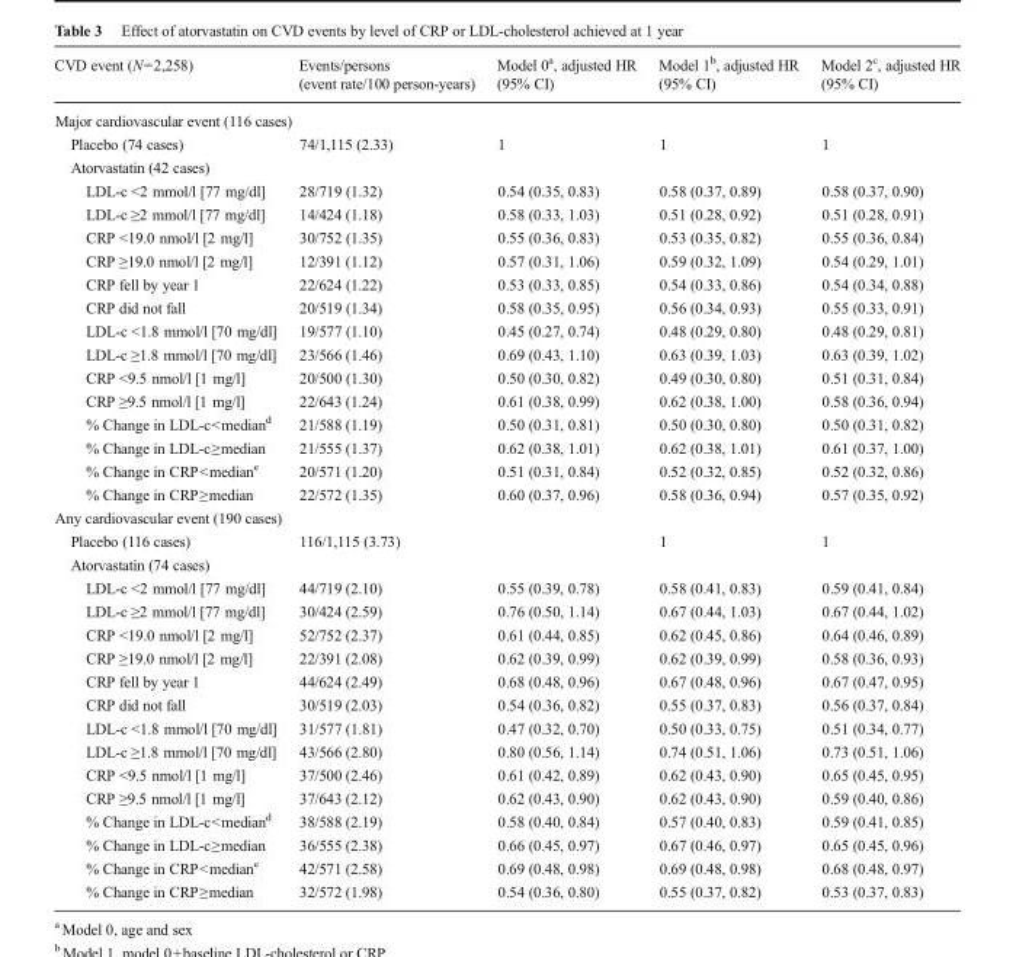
<table><thead><tr><td>CVD event (N=2,258)</td><td>Events/persons (event rate/100 person-years)</td><td>Model 0<sup>a</sup>, adjusted HR (95% CI)</td><td>Model 1<sup>b</sup>, adjusted HR (95% CI)</td><td>Model 2<sup>c</sup>, adjusted HR (95% CI)</td></tr></thead><tbody><tr><td colspan="5">Major cardiovascular event (116 cases)</td></tr><tr><td>Placebo (74 cases)</td><td>74/1,115 (2.33)</td><td>1</td><td>1</td><td>1</td></tr><tr><td colspan="5">Atorvastatin (42 cases)</td></tr><tr><td>LDL-c &lt;2 mmol/l [77 mg/dl]</td><td>28/719 (1.32)</td><td>0.54 (0.35, 0.83)</td><td>0.58 (0.37, 0.89)</td><td>0.58 (0.37, 0.90)</td></tr><tr><td>LDL-c ≥2 mmol/l [77 mg/dl]</td><td>14/424 (1.18)</td><td>0.58 (0.33, 1.03)</td><td>0.51 (0.28, 0.92)</td><td>0.51 (0.28, 0.91)</td></tr><tr><td>CRP &lt;19.0 nmol/l [2 mg/l]</td><td>30/752 (1.35)</td><td>0.55 (0.36, 0.83)</td><td>0.53 (0.35, 0.82)</td><td>0.55 (0.36, 0.84)</td></tr><tr><td>CRP ≥19.0 nmol/l [2 mg/l]</td><td>12/391 (1.12)</td><td>0.57 (0.31, 1.06)</td><td>0.59 (0.32, 1.09)</td><td>0.54 (0.29, 1.01)</td></tr><tr><td>CRP fell by year 1</td><td>22/624 (1.22)</td><td>0.53 (0.33, 0.85)</td><td>0.54 (0.33, 0.86)</td><td>0.54 (0.34, 0.88)</td></tr><tr><td>CRP did not fall</td><td>20/519 (1.34)</td><td>0.58 (0.35, 0.95)</td><td>0.56 (0.34, 0.93)</td><td>0.55 (0.33, 0.91)</td></tr><tr><td>LDL-c &lt;1.8 mmol/l [70 mg/dl]</td><td>19/577 (1.10)</td><td>0.45 (0.27, 0.74)</td><td>0.48 (0.29, 0.80)</td><td>0.48 (0.29, 0.81)</td></tr><tr><td>LDL-c ≥1.8 mmol/l [70 mg/dl]</td><td>23/566 (1.46)</td><td>0.69 (0.43, 1.10)</td><td>0.63 (0.39, 1.03)</td><td>0.63 (0.39, 1.02)</td></tr><tr><td>CRP &lt;9.5 nmol/l [1 mg/l]</td><td>20/500 (1.30)</td><td>0.50 (0.30, 0.82)</td><td>0.49 (0.30, 0.80)</td><td>0.51 (0.31, 0.84)</td></tr><tr><td>CRP ≥9.5 nmol/l [1 mg/l]</td><td>22/643 (1.24)</td><td>0.61 (0.38, 0.99)</td><td>0.62 (0.38, 1.00)</td><td>0.58 (0.36, 0.94)</td></tr><tr><td>% Change in LDL-c&lt;median<sup>d</sup></td><td>21/588 (1.19)</td><td>0.50 (0.31, 0.81)</td><td>0.50 (0.30, 0.80)</td><td>0.50 (0.31, 0.82)</td></tr><tr><td>% Change in LDL-c≥median</td><td>21/555 (1.37)</td><td>0.62 (0.38, 1.01)</td><td>0.62 (0.38, 1.01)</td><td>0.61 (0.37, 1.00)</td></tr><tr><td>% Change in CRP&lt;median<sup>e</sup></td><td>20/571 (1.20)</td><td>0.51 (0.31, 0.84)</td><td>0.52 (0.32, 0.85)</td><td>0.52 (0.32, 0.86)</td></tr><tr><td>% Change in CRP≥median</td><td>22/572 (1.35)</td><td>0.60 (0.37, 0.96)</td><td>0.58 (0.36, 0.94)</td><td>0.57 (0.35, 0.92)</td></tr><tr><td colspan="5">Any cardiovascular event (190 cases)</td></tr><tr><td>Placebo (116 cases)</td><td>116/1,115 (3.73)</td><td></td><td>1</td><td>1</td></tr><tr><td colspan="5">Atorvastatin (74 cases)</td></tr><tr><td>LDL-c &lt;2 mmol/l [77 mg/dl]</td><td>44/719 (2.10)</td><td>0.55 (0.39, 0.78)</td><td>0.58 (0.41, 0.83)</td><td>0.59 (0.41, 0.84)</td></tr><tr><td>LDL-c ≥2 mmol/l [77 mg/dl]</td><td>30/424 (2.59)</td><td>0.76 (0.50, 1.14)</td><td>0.67 (0.44, 1.03)</td><td>0.67 (0.44, 1.02)</td></tr><tr><td>CRP &lt;19.0 nmol/l [2 mg/l]</td><td>52/752 (2.37)</td><td>0.61 (0.44, 0.85)</td><td>0.62 (0.45, 0.86)</td><td>0.64 (0.46, 0.89)</td></tr><tr><td>CRP ≥19.0 nmol/l [2 mg/l]</td><td>22/391 (2.08)</td><td>0.62 (0.39, 0.99)</td><td>0.62 (0.39, 0.99)</td><td>0.58 (0.36, 0.93)</td></tr><tr><td>CRP fell by year 1</td><td>44/624 (2.49)</td><td>0.68 (0.48, 0.96)</td><td>0.67 (0.48, 0.96)</td><td>0.67 (0.47, 0.95)</td></tr><tr><td>CRP did not fall</td><td>30/519 (2.03)</td><td>0.54 (0.36, 0.82)</td><td>0.55 (0.37, 0.83)</td><td>0.56 (0.37, 0.84)</td></tr><tr><td>LDL-c &lt;1.8 mmol/l [70 mg/dl]</td><td>31/577 (1.81)</td><td>0.47 (0.32, 0.70)</td><td>0.50 (0.33, 0.75)</td><td>0.51 (0.34, 0.77)</td></tr><tr><td>LDL-c ≥1.8 mmol/l [70 mg/dl]</td><td>43/566 (2.80)</td><td>0.80 (0.56, 1.14)</td><td>0.74 (0.51, 1.06)</td><td>0.73 (0.51, 1.06)</td></tr><tr><td>CRP &lt;9.5 nmol/l [1 mg/l]</td><td>37/500 (2.46)</td><td>0.61 (0.42, 0.89)</td><td>0.62 (0.43, 0.90)</td><td>0.65 (0.45, 0.95)</td></tr><tr><td>CRP ≥9.5 nmol/l [1 mg/l]</td><td>37/643 (2.12)</td><td>0.62 (0.43, 0.90)</td><td>0.62 (0.43, 0.90)</td><td>0.59 (0.40, 0.86)</td></tr><tr><td>% Change in LDL-c&lt;median<sup>d</sup></td><td>38/588 (2.19)</td><td>0.58 (0.40, 0.84)</td><td>0.57 (0.40, 0.83)</td><td>0.59 (0.41, 0.85)</td></tr><tr><td>% Change in LDL-c≥median</td><td>36/555 (2.38)</td><td>0.66 (0.45, 0.97)</td><td>0.67 (0.46, 0.97)</td><td>0.65 (0.45, 0.96)</td></tr><tr><td>% Change in CRP&lt;median<sup>e</sup></td><td>42/571 (2.58)</td><td>0.69 (0.48, 0.98)</td><td>0.69 (0.48, 0.98)</td><td>0.68 (0.48, 0.97)</td></tr><tr><td>% Change in CRP≥median</td><td>32/572 (1.98)</td><td>0.54 (0.36, 0.80)</td><td>0.55 (0.37, 0.82)</td><td>0.53 (0.37, 0.83)</td></tr></tbody></table>